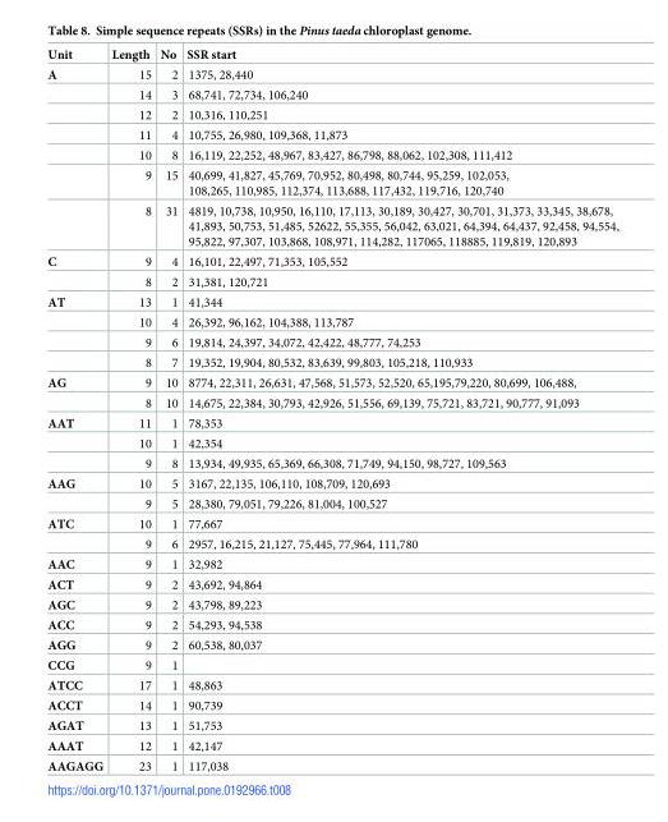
<table><thead><tr><td>Unit</td><td>Length</td><td>No</td><td>SSR start</td></tr></thead><tbody><tr><td rowspan="7">A</td><td>15</td><td>2</td><td>1375, 28,440</td></tr><tr><td>14</td><td>3</td><td>68,741, 72,734, 106,240</td></tr><tr><td>12</td><td>2</td><td>10,316, 110,251</td></tr><tr><td>11</td><td>4</td><td>10,755, 26,980, 109,368, 11,873</td></tr><tr><td>10</td><td>8</td><td>16,119, 22,252, 48,967, 83,427, 86,798, 88,062, 102,308, 111,412</td></tr><tr><td>9</td><td>15</td><td>40,699, 41,827, 45,769, 70,952, 80,498, 80,744, 95,259, 102,053, 108,265, 110,985, 112,374, 113,688, 117,432, 119,716, 120,740</td></tr><tr><td>8</td><td>31</td><td>4819, 10,738, 10,950, 16,110, 17,113, 30,189, 30,427, 30,701, 31,373, 33,345, 38,678, 41,893, 50,753, 51,485, 52622, 55,355, 56,042, 63,021, 64,394, 64,437, 92,458, 94,554, 95,822, 97,307, 103,868, 108,971, 114,282, 117065, 118885, 119,819, 120,893</td></tr><tr><td rowspan="2">C</td><td>9</td><td>4</td><td>16,101, 22,497, 71,353, 105,552</td></tr><tr><td>8</td><td>2</td><td>31,381, 120,721</td></tr><tr><td rowspan="4">AT</td><td>13</td><td>1</td><td>41,344</td></tr><tr><td>10</td><td>4</td><td>26,392, 96,162, 104,388, 113,787</td></tr><tr><td>9</td><td>6</td><td>19,814, 24,397, 34,072, 42,422, 48,777, 74,253</td></tr><tr><td>8</td><td>7</td><td>19,352, 19,904, 80,532, 83,639, 99,803, 105,218, 110,933</td></tr><tr><td rowspan="2">AG</td><td>9</td><td>10</td><td>8774, 22,311, 26,631, 47,568, 51,573, 52,520, 65,195,79,220, 80,699, 106,488,</td></tr><tr><td>8</td><td>10</td><td>14,675, 22,384, 30,793, 42,926, 51,556, 69,139, 75,721, 83,721, 90,777, 91,093</td></tr><tr><td rowspan="3">AAT</td><td>11</td><td>1</td><td>78,353</td></tr><tr><td>10</td><td>1</td><td>42,354</td></tr><tr><td>9</td><td>8</td><td>13,934, 49,935, 65,369, 66,308, 71,749, 94,150, 98,727, 109,563</td></tr><tr><td rowspan="2">AAG</td><td>10</td><td>5</td><td>3167, 22,135, 106,110, 108,709, 120,693</td></tr><tr><td>9</td><td>5</td><td>28,380, 79,051, 79,226, 81,004, 100,527</td></tr><tr><td rowspan="2">ATC</td><td>10</td><td>1</td><td>77,667</td></tr><tr><td>9</td><td>6</td><td>2957, 16,215, 21,127, 75,445, 77,964, 111,780</td></tr><tr><td>AAC</td><td>9</td><td>1</td><td>32,982</td></tr><tr><td>ACT</td><td>9</td><td>2</td><td>43,692, 94,864</td></tr><tr><td>AGC</td><td>9</td><td>2</td><td>43,798, 89,223</td></tr><tr><td>ACC</td><td>9</td><td>2</td><td>54,293, 94,538</td></tr><tr><td>AGG</td><td>9</td><td>2</td><td>60,538, 80,037</td></tr><tr><td>CCG</td><td>9</td><td>1</td><td></td></tr><tr><td>ATCC</td><td>17</td><td>1</td><td>48,863</td></tr><tr><td>ACCT</td><td>14</td><td>1</td><td>90,739</td></tr><tr><td>AGAT</td><td>13</td><td>1</td><td>51,753</td></tr><tr><td>AAAT</td><td>12</td><td>1</td><td>42,147</td></tr><tr><td>AAGAGG</td><td>23</td><td>1</td><td>117,038</td></tr></tbody></table>